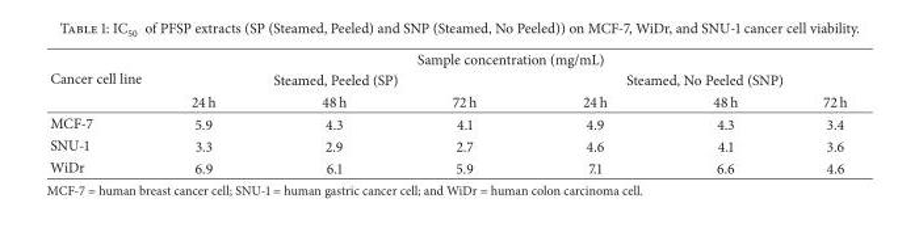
<table><thead><tr><td rowspan="3">Cancer cell line</td><td colspan="6">Sample concentration (mg/mL)</td></tr><tr><td colspan="3">Steamed, Peeled (SP)</td><td colspan="3">Steamed, No Peeled (SNP)</td></tr><tr><td>24 h</td><td>48 h</td><td>72 h</td><td>24 h</td><td>48 h</td><td>72 h</td></tr></thead><tbody><tr><td>MCF-7</td><td>5.9</td><td>4.3</td><td>4.1</td><td>4.9</td><td>4.3</td><td>3.4</td></tr><tr><td>SNU-1</td><td>3.3</td><td>2.9</td><td>2.7</td><td>4.6</td><td>4.1</td><td>3.6</td></tr><tr><td>WiDr</td><td>6.9</td><td>6.1</td><td>5.9</td><td>7.1</td><td>6.6</td><td>4.6</td></tr></tbody></table>